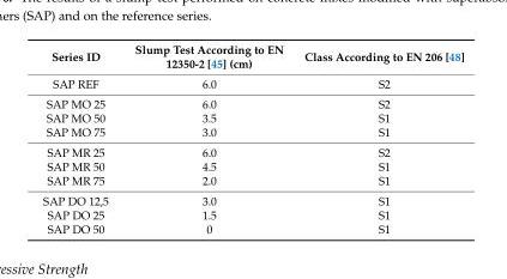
<table><thead><tr><td>Series ID</td><td>Slump Test According to EN 12350-2 [45] (cm)</td><td>Class According to EN 206 [48]</td></tr></thead><tbody><tr><td>SAP REF</td><td>6.0</td><td>S2</td></tr><tr><td>SAP MO 25</td><td>6.0</td><td>S2</td></tr><tr><td>SAP MO 50</td><td>3.5</td><td>S1</td></tr><tr><td>SAP MO 75</td><td>3.0</td><td>S1</td></tr><tr><td>SAP MR 25</td><td>6.0</td><td>S2</td></tr><tr><td>SAP MR 50</td><td>4.5</td><td>S1</td></tr><tr><td>SAP MR 75</td><td>2.0</td><td>S1</td></tr><tr><td>SAP DO 12,5</td><td>3.0</td><td>S1</td></tr><tr><td>SAP DO 25</td><td>1.5</td><td>S1</td></tr><tr><td>SAP DO 50</td><td>0</td><td>S1</td></tr></tbody></table>